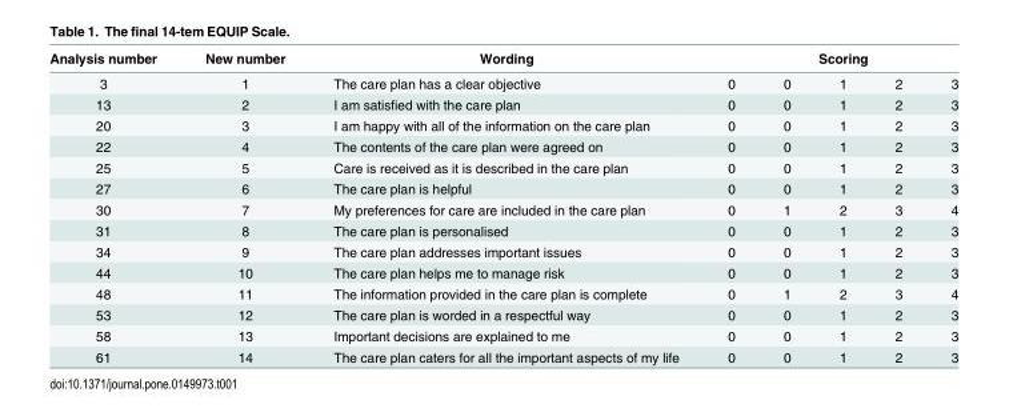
<table><thead><tr><td rowspan="2">Analysis number 3</td><td rowspan="2">New number 1</td><td rowspan="2">Wording The care plan has a clear objective</td><td colspan="5">Scoring</td></tr><tr><td>0</td><td>0</td><td>1</td><td>2</td><td>3</td></tr></thead><tbody><tr><td>13</td><td>2</td><td>I am satisfied with the care plan</td><td>0</td><td>0</td><td>1</td><td>2</td><td>3</td></tr><tr><td>20</td><td>3</td><td>I am happy with all of the information on the care plan</td><td>0</td><td>0</td><td>1</td><td>2</td><td>3</td></tr><tr><td>22</td><td>4</td><td>The contents of the care plan were agreed on</td><td>0</td><td>0</td><td>1</td><td>2</td><td>3</td></tr><tr><td>25</td><td>5</td><td>Care is received as it is described in the care plan</td><td>0</td><td>0</td><td>1</td><td>2</td><td>3</td></tr><tr><td>27</td><td>6</td><td>The care plan is helpful</td><td>0</td><td>0</td><td>1</td><td>2</td><td>3</td></tr><tr><td>30</td><td>7</td><td>My preferences for care are included in the care plan</td><td>0</td><td>1</td><td>2</td><td>3</td><td>4</td></tr><tr><td>31</td><td>8</td><td>The care plan is personalised</td><td>0</td><td>0</td><td>1</td><td>2</td><td>3</td></tr><tr><td>34</td><td>9</td><td>The care plan addresses important issues</td><td>0</td><td>0</td><td>1</td><td>2</td><td>3</td></tr><tr><td>44</td><td>10</td><td>The care plan helps me to manage risk</td><td>0</td><td>0</td><td>1</td><td>2</td><td>3</td></tr><tr><td>48</td><td>11</td><td>The information provided in the care plan is complete</td><td>0</td><td>1</td><td>2</td><td>3</td><td>4</td></tr><tr><td>53</td><td>12</td><td>The care plan is worded in a respectful way</td><td>0</td><td>0</td><td>1</td><td>2</td><td>3</td></tr><tr><td>58</td><td>13</td><td>Important decisions are explained to me</td><td>0</td><td>0</td><td>1</td><td>2</td><td>3</td></tr><tr><td>61</td><td>14</td><td>The care plan caters for all the important aspects of my life</td><td>0</td><td>0</td><td>1</td><td>2</td><td>3</td></tr></tbody></table>